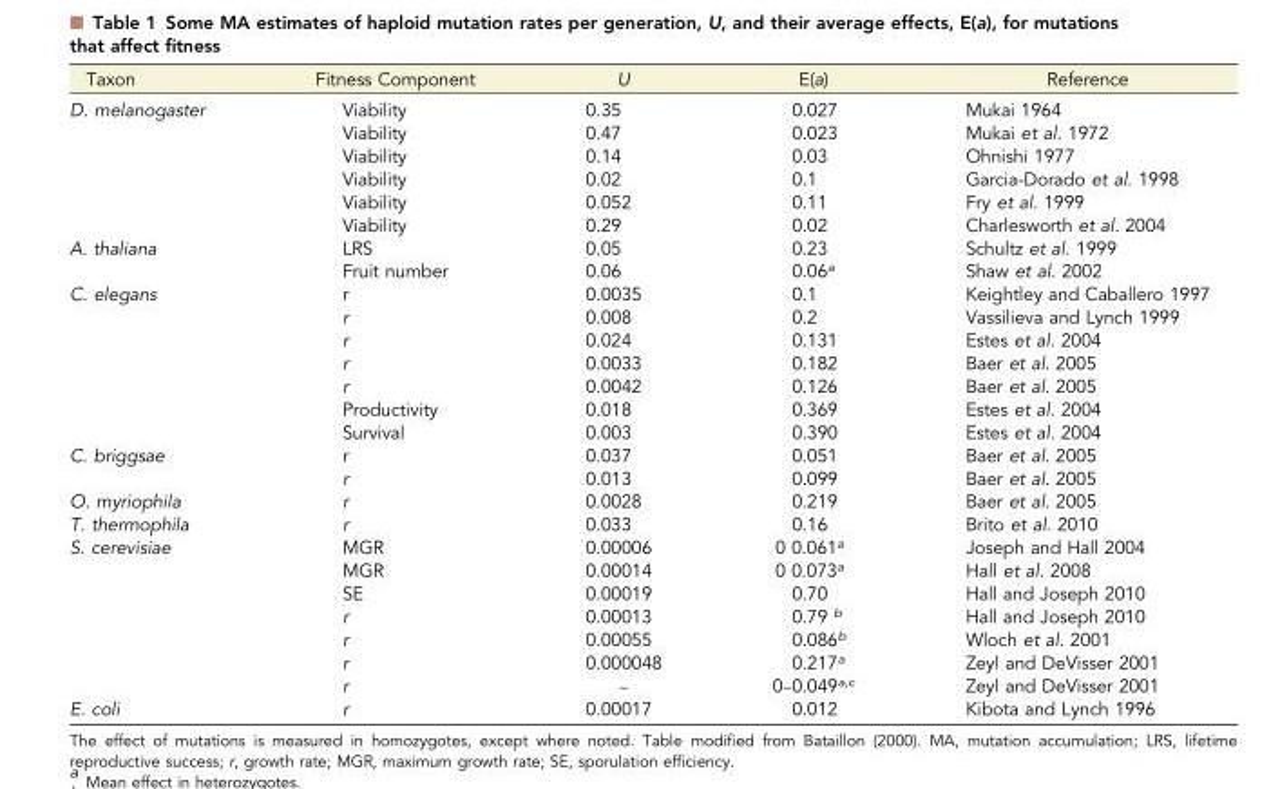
<table><thead><tr><td>Taxon</td><td>Fitness Component</td><td>U</td><td>E(a)</td><td>Reference</td></tr></thead><tbody><tr><td rowspan="6">D. melanogaster</td><td>Viability</td><td>0.35</td><td>0.027</td><td>Mukai 1964</td></tr><tr><td>Viability</td><td>0.47</td><td>0.023</td><td>Mukai et al. 1972</td></tr><tr><td>Viability</td><td>0.14</td><td>0.03</td><td>Ohnishi 1977</td></tr><tr><td>Viability</td><td>0.02</td><td>0.1</td><td>Garcia-Dorado et al. 1998</td></tr><tr><td>Viability</td><td>0.052</td><td>0.11</td><td>Fry et al. 1999</td></tr><tr><td>Viability</td><td>0.29</td><td>0.02</td><td>Charlesworth et al. 2004</td></tr><tr><td rowspan="2">A. thaliana</td><td>LRS</td><td>0.05</td><td>0.23</td><td>Schultz et al. 1999</td></tr><tr><td>Fruit number</td><td>0.06</td><td>0.06<sup>a</sup></td><td>Shaw et al. 2002</td></tr><tr><td rowspan="7">C. elegans</td><td>r</td><td>0.0035</td><td>0.1</td><td>Keightley and Caballero 1997</td></tr><tr><td>r</td><td>0.008</td><td>0.2</td><td>Vassilieva and Lynch 1999</td></tr><tr><td>r</td><td>0.024</td><td>0.131</td><td>Estes et al. 2004</td></tr><tr><td>r</td><td>0.0033</td><td>0.182</td><td>Baer et al. 2005</td></tr><tr><td>r</td><td>0.0042</td><td>0.126</td><td>Baer et al. 2005</td></tr><tr><td>Productivity</td><td>0.018</td><td>0.369</td><td>Estes et al. 2004</td></tr><tr><td>Survival</td><td>0.003</td><td>0.390</td><td>Estes et al. 2004</td></tr><tr><td rowspan="2">C. briggsae</td><td>r</td><td>0.037</td><td>0.051</td><td>Baer et al. 2005</td></tr><tr><td>r</td><td>0.013</td><td>0.099</td><td>Baer et al. 2005</td></tr><tr><td>O. myriophila</td><td>r</td><td>0.0028</td><td>0.219</td><td>Baer et al. 2005</td></tr><tr><td>T. thermophila</td><td>r</td><td>0.033</td><td>0.16</td><td>Brito et al. 2010</td></tr><tr><td rowspan="7">S. cerevisiae</td><td>MGR</td><td>0.00006</td><td>0 0.061<sup>a</sup></td><td>Joseph and Hall 2004</td></tr><tr><td>MGR</td><td>0.00014</td><td>0 0.073<sup>a</sup></td><td>Hall et al. 2008</td></tr><tr><td>SE</td><td>0.00019</td><td>0.70</td><td>Hall and Joseph 2010</td></tr><tr><td>r</td><td>0.00013</td><td>0.79 <sup>b</sup></td><td>Hall and Joseph 2010</td></tr><tr><td>r</td><td>0.00055</td><td>0.086<sup>b</sup></td><td>Wloch et al. 2001</td></tr><tr><td>r</td><td>0.000048</td><td>0.217<sup>a</sup></td><td>Zeyl and DeVisser 2001</td></tr><tr><td>r</td><td>–</td><td>0–0.049a,c</td><td>Zeyl and DeVisser 2001</td></tr><tr><td>E. coli</td><td>r</td><td>0.00017</td><td>0.012</td><td>Kibota and Lynch 1996</td></tr></tbody></table>